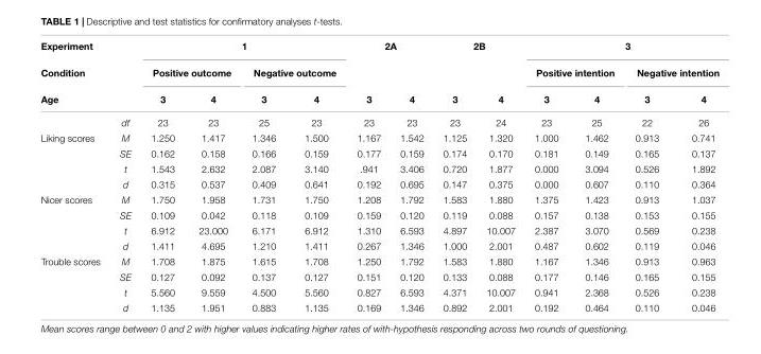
<table><thead><tr><td rowspan="3">Experiment Condition Age</td><td rowspan="3"></td><td colspan="4">1</td><td colspan="2">2A</td><td colspan="2">2B</td><td colspan="4">3</td></tr><tr><td colspan="2">Positive outcome</td><td colspan="2">Negative outcome</td><td rowspan="2">3</td><td rowspan="2">4</td><td rowspan="2">3</td><td rowspan="2">4</td><td colspan="2">Positive intention</td><td colspan="2">Negative intention</td></tr><tr><td>3</td><td>4</td><td>3</td><td>4</td><td>3</td><td>4</td><td>3</td><td>4</td></tr></thead><tbody><tr><td></td><td>df</td><td>23</td><td>23</td><td>25</td><td>23</td><td>23</td><td>23</td><td>23</td><td>24</td><td>23</td><td>25</td><td>22</td><td>26</td></tr><tr><td rowspan="4">Liking scores</td><td>M</td><td>1.250</td><td>1.417</td><td>1.346</td><td>1.500</td><td>1.167</td><td>1.542</td><td>1.125</td><td>1.320</td><td>1.000</td><td>1.462</td><td>0.913</td><td>0.741</td></tr><tr><td>SE</td><td>0.162</td><td>0.158</td><td>0.166</td><td>0.159</td><td>0.177</td><td>0.159</td><td>0.174</td><td>0.170</td><td>0.181</td><td>0.149</td><td>0.165</td><td>0.137</td></tr><tr><td>t</td><td>1.543</td><td>2.632</td><td>2.087</td><td>3.140</td><td>.941</td><td>3.406</td><td>0.720</td><td>1.877</td><td>0.000</td><td>3.094</td><td>0.526</td><td>1.892</td></tr><tr><td>d</td><td>0.315</td><td>0.537</td><td>0.409</td><td>0.641</td><td>0.192</td><td>0.695</td><td>0.147</td><td>0.375</td><td>0.000</td><td>0.607</td><td>0.110</td><td>0.364</td></tr><tr><td rowspan="4">Nicer scores</td><td>M</td><td>1.750</td><td>1.958</td><td>1.731</td><td>1.750</td><td>1.208</td><td>1.792</td><td>1.583</td><td>1.880</td><td>1.375</td><td>1.423</td><td>0.913</td><td>1.037</td></tr><tr><td>SE</td><td>0.109</td><td>0.042</td><td>0.118</td><td>0.109</td><td>0.159</td><td>0.120</td><td>0.119</td><td>0.088</td><td>0.157</td><td>0.138</td><td>0.153</td><td>0.155</td></tr><tr><td>t</td><td>6.912</td><td>23.000</td><td>6.171</td><td>6.912</td><td>1.310</td><td>6.593</td><td>4.897</td><td>10.007</td><td>2.387</td><td>3.070</td><td>0.569</td><td>0.238</td></tr><tr><td>d</td><td>1.411</td><td>4.695</td><td>1.210</td><td>1.411</td><td>0.267</td><td>1.346</td><td>1.000</td><td>2.001</td><td>0.487</td><td>0.602</td><td>0.119</td><td>0.046</td></tr><tr><td rowspan="4">Trouble scores</td><td>M</td><td>1.708</td><td>1.875</td><td>1.615</td><td>1.708</td><td>1.250</td><td>1.792</td><td>1.583</td><td>1.880</td><td>1.167</td><td>1.346</td><td>0.913</td><td>0.963</td></tr><tr><td>SE</td><td>0.127</td><td>0.092</td><td>0.137</td><td>0.127</td><td>0.151</td><td>0.120</td><td>0.133</td><td>0.088</td><td>0.177</td><td>0.146</td><td>0.165</td><td>0.155</td></tr><tr><td>t</td><td>5.560</td><td>9.559</td><td>4.500</td><td>5.560</td><td>0.827</td><td>6.593</td><td>4.371</td><td>10.007</td><td>0.941</td><td>2.368</td><td>0.526</td><td>0.238</td></tr><tr><td>d</td><td>1.135</td><td>1.951</td><td>0.883</td><td>1.135</td><td>0.169</td><td>1.346</td><td>0.892</td><td>2.001</td><td>0.192</td><td>0.464</td><td>0.110</td><td>0.046</td></tr></tbody></table>